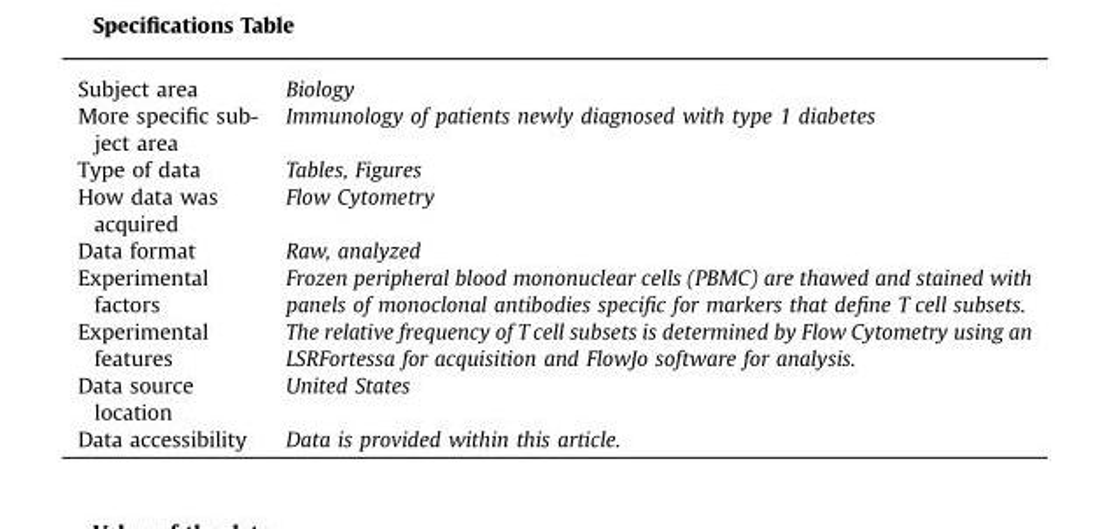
<table><tbody><tr><td>Subject area</td><td>Biology</td></tr><tr><td>More specific sub- ject area</td><td>Immunology of patients newly diagnosed with type 1 diabetes</td></tr><tr><td>Type of data</td><td>Tables, Figures</td></tr><tr><td>How data was acquired</td><td>Flow Cytometry</td></tr><tr><td>Data format</td><td>Raw, analyzed</td></tr><tr><td>Experimental factors</td><td>Frozen peripheral blood mononuclear cells (PBMC) are thawed and stained with panels of monoclonal antibodies specific for markers that define T cell subsets.</td></tr><tr><td>Experimental features</td><td>The relative frequency of T cell subsets is determined by Flow Cytometry using an LSRFortessa for acquisition and FlowJo software for analysis.</td></tr><tr><td>Data source location</td><td>United States</td></tr><tr><td>Data accessibility</td><td>Data is provided within this article.</td></tr></tbody></table>